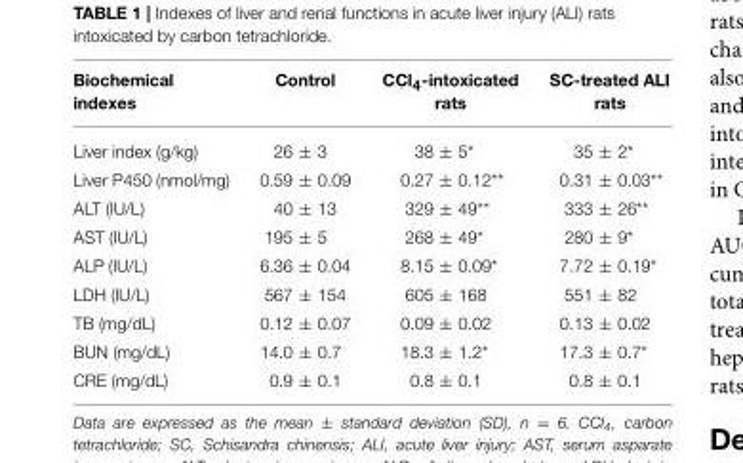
<table><thead><tr><td>Biochemical indexes</td><td>Control</td><td>CCl<sub>4</sub>-intoxicated rats</td><td>SC-treated ALI rats</td></tr></thead><tbody><tr><td>Liver index (g/kg)</td><td>26 ± 3</td><td>38 ± 5*</td><td>35 ± 2*</td></tr><tr><td>Liver P450 (nmol/mg)</td><td>0.59 ± 0.09</td><td>0.27 ± 0.12**</td><td>0.31 ± 0.03**</td></tr><tr><td>ALT (IU/L)</td><td>40 ± 13</td><td>329 ± 49**</td><td>333 ± 26**</td></tr><tr><td>AST (IU/L)</td><td>195 ± 5</td><td>268 ± 49*</td><td>280 ± 9*</td></tr><tr><td>ALP (IU/L)</td><td>6.36 ± 0.04</td><td>8.15 ± 0.09*</td><td>7.72 ± 0.19*</td></tr><tr><td>LDH (IU/L)</td><td>567 ± 154</td><td>605 ± 168</td><td>551 ± 82</td></tr><tr><td>TB (mg/dL)</td><td>0.12 ± 0.07</td><td>0.09 ± 0.02</td><td>0.13 ± 0.02</td></tr><tr><td>BUN (mg/dL)</td><td>14.0 ± 0.7</td><td>18.3 ± 1.2*</td><td>17.3 ± 0.7*</td></tr><tr><td>CRE (mg/dL)</td><td>0.9 ± 0.1</td><td>0.8 ± 0.1</td><td>0.8 ± 0.1</td></tr></tbody></table>